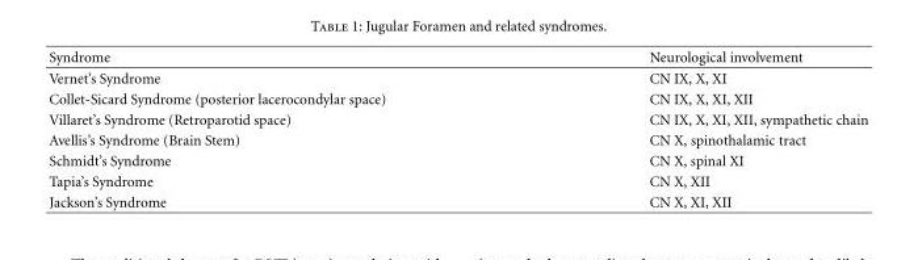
<table><thead><tr><td>Syndrome</td><td>Neurological involvement</td></tr></thead><tbody><tr><td>Vernet’s Syndrome</td><td>CN IX, X, XI</td></tr><tr><td>Collet-Sicard Syndrome (posterior lacerocondylar space)</td><td>CN IX, X, XI, XII</td></tr><tr><td>Villaret’s Syndrome (Retroparotid space)</td><td>CN IX, X, XI, XII, sympathetic chain</td></tr><tr><td>Avellis’s Syndrome (Brain Stem)</td><td>CN X, spinothalamic tract</td></tr><tr><td>Schmidt’s Syndrome</td><td>CN X, spinal XI</td></tr><tr><td>Tapia’s Syndrome</td><td>CN X, XII</td></tr><tr><td>Jackson’s Syndrome</td><td>CN X, XI, XII</td></tr></tbody></table>